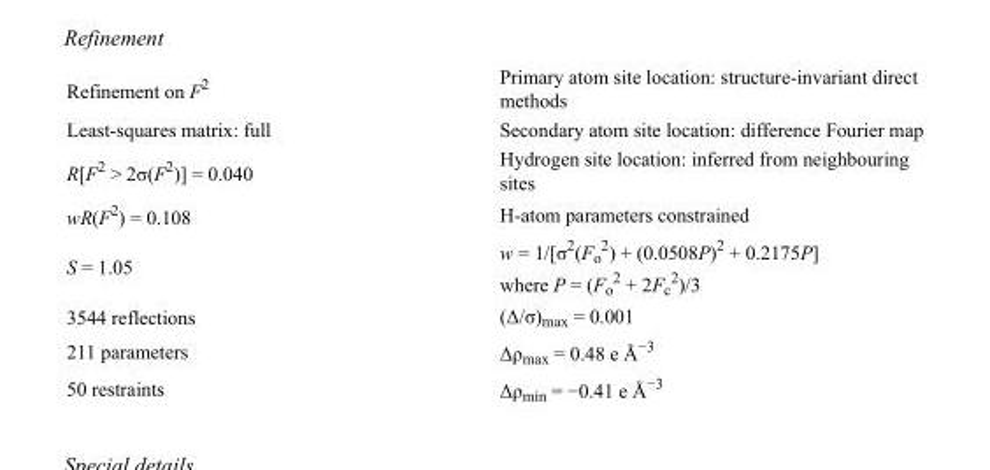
<table><tbody><tr><td>Refinement on F<sup>2</sup></td><td>Primary atom site location: structure-invariant direct methods</td></tr><tr><td>Least-squares matrix: full</td><td>Secondary atom site location: difference Fourier map</td></tr><tr><td>R[F<sup>2</sup> &gt; 2σ(F<sup>2</sup>)] = 0.040</td><td>Hydrogen site location: inferred from neighbouring sites</td></tr><tr><td>wR(F<sup>2</sup>) = 0.108</td><td>H-atom parameters constrained</td></tr><tr><td>S = 1.05</td><td>w = 1/[σ<sup>2</sup>(F<sub>o</sub> <sup>2</sup>) + (0.0508P)<sup>2</sup> + 0.2175P] where P = (F<sub>o</sub> <sup>2</sup> + 2F<sub>c</sub> <sup>2</sup>)/3</td></tr><tr><td>3544 reflections</td><td>(Δ/σ)<sub>max</sub> = 0.001</td></tr><tr><td>211 parameters</td><td>Δρ<sub>max</sub> = 0.48 e Å<sup>−3</sup></td></tr><tr><td>50 restraints</td><td>Δρ<sub>min</sub> = −0.41 e Å<sup>−3</sup></td></tr></tbody></table>